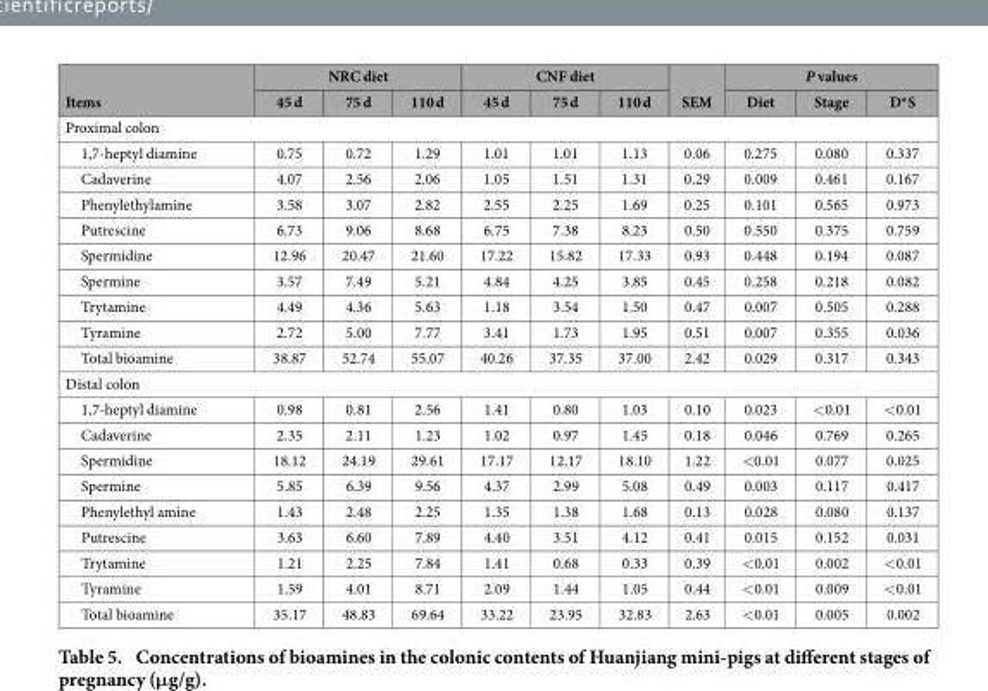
<table><thead><tr><td rowspan="2">Items</td><td colspan="3">NRC diet</td><td colspan="3">CNF diet</td><td rowspan="2">SEM</td><td colspan="3">P values</td></tr><tr><td>45 d</td><td>75 d</td><td>110 d</td><td>45 d</td><td>75 d</td><td>110 d</td><td>Diet</td><td>Stage</td><td>D*S</td></tr></thead><tbody><tr><td colspan="11">Proximal colon</td></tr><tr><td>1,7-heptyl diamine</td><td>0.75</td><td>0.72</td><td>1.29</td><td>1.01</td><td>1.01</td><td>1.13</td><td>0.06</td><td>0.275</td><td>0.080</td><td>0.337</td></tr><tr><td>Cadaverine</td><td>4.07</td><td>2.56</td><td>2.06</td><td>1.05</td><td>1.51</td><td>1.31</td><td>0.29</td><td>0.009</td><td>0.461</td><td>0.167</td></tr><tr><td>Phenylethylamine</td><td>3.58</td><td>3.07</td><td>2.82</td><td>2.55</td><td>2.25</td><td>1.69</td><td>0.25</td><td>0.101</td><td>0.565</td><td>0.973</td></tr><tr><td>Putrescine</td><td>6.73</td><td>9.06</td><td>8.68</td><td>6.75</td><td>7.38</td><td>8.23</td><td>0.50</td><td>0.550</td><td>0.375</td><td>0.759</td></tr><tr><td>Spermidine</td><td>12.96</td><td>20.47</td><td>21.60</td><td>17.22</td><td>15.82</td><td>17.33</td><td>0.93</td><td>0.448</td><td>0.194</td><td>0.087</td></tr><tr><td>Spermine</td><td>3.57</td><td>7.49</td><td>5.21</td><td>4.84</td><td>4.25</td><td>3.85</td><td>0.45</td><td>0.258</td><td>0.218</td><td>0.082</td></tr><tr><td>Trytamine</td><td>4.49</td><td>4.36</td><td>5.63</td><td>1.18</td><td>3.54</td><td>1.50</td><td>0.47</td><td>0.007</td><td>0.505</td><td>0.288</td></tr><tr><td>Tyramine</td><td>2.72</td><td>5.00</td><td>7.77</td><td>3.41</td><td>1.73</td><td>1.95</td><td>0.51</td><td>0.007</td><td>0.355</td><td>0.036</td></tr><tr><td>Total bioamine</td><td>38.87</td><td>52.74</td><td>55.07</td><td>40.26</td><td>37.35</td><td>37.00</td><td>2.42</td><td>0.029</td><td>0.317</td><td>0.343</td></tr><tr><td colspan="11">Distal colon</td></tr><tr><td>1,7-heptyl diamine</td><td>0.98</td><td>0.81</td><td>2.56</td><td>1.41</td><td>0.80</td><td>1.03</td><td>0.10</td><td>0.023</td><td>&lt; 0.01</td><td>&lt; 0.01</td></tr><tr><td>Cadaverine</td><td>2.35</td><td>2.11</td><td>1.23</td><td>1.02</td><td>0.97</td><td>1.45</td><td>0.18</td><td>0.046</td><td>0.769</td><td>0.265</td></tr><tr><td>Spermidine</td><td>18.12</td><td>24.19</td><td>29.61</td><td>17.17</td><td>12.17</td><td>18.10</td><td>1.22</td><td>&lt; 0.01</td><td>0.077</td><td>0.025</td></tr><tr><td>Spermine</td><td>5.85</td><td>6.39</td><td>9.56</td><td>4.37</td><td>2.99</td><td>5.08</td><td>0.49</td><td>0.003</td><td>0.117</td><td>0.417</td></tr><tr><td>Phenylethyl amine</td><td>1.43</td><td>2.48</td><td>2.25</td><td>1.35</td><td>1.38</td><td>1.68</td><td>0.13</td><td>0.028</td><td>0.080</td><td>0.137</td></tr><tr><td>Putrescine</td><td>3.63</td><td>6.60</td><td>7.89</td><td>4.40</td><td>3.51</td><td>4.12</td><td>0.41</td><td>0.015</td><td>0.152</td><td>0.031</td></tr><tr><td>Trytamine</td><td>1.21</td><td>2.25</td><td>7.84</td><td>1.41</td><td>0.68</td><td>0.33</td><td>0.39</td><td>&lt; 0.01</td><td>0.002</td><td>&lt; 0.01</td></tr><tr><td>Tyramine</td><td>1.59</td><td>4.01</td><td>8.71</td><td>2.09</td><td>1.44</td><td>1.05</td><td>0.44</td><td>&lt; 0.01</td><td>0.009</td><td>&lt; 0.01</td></tr><tr><td>Total bioamine</td><td>35.17</td><td>48.83</td><td>69.64</td><td>33.22</td><td>23.95</td><td>32.83</td><td>2.63</td><td>&lt; 0.01</td><td>0.005</td><td>0.002</td></tr></tbody></table>